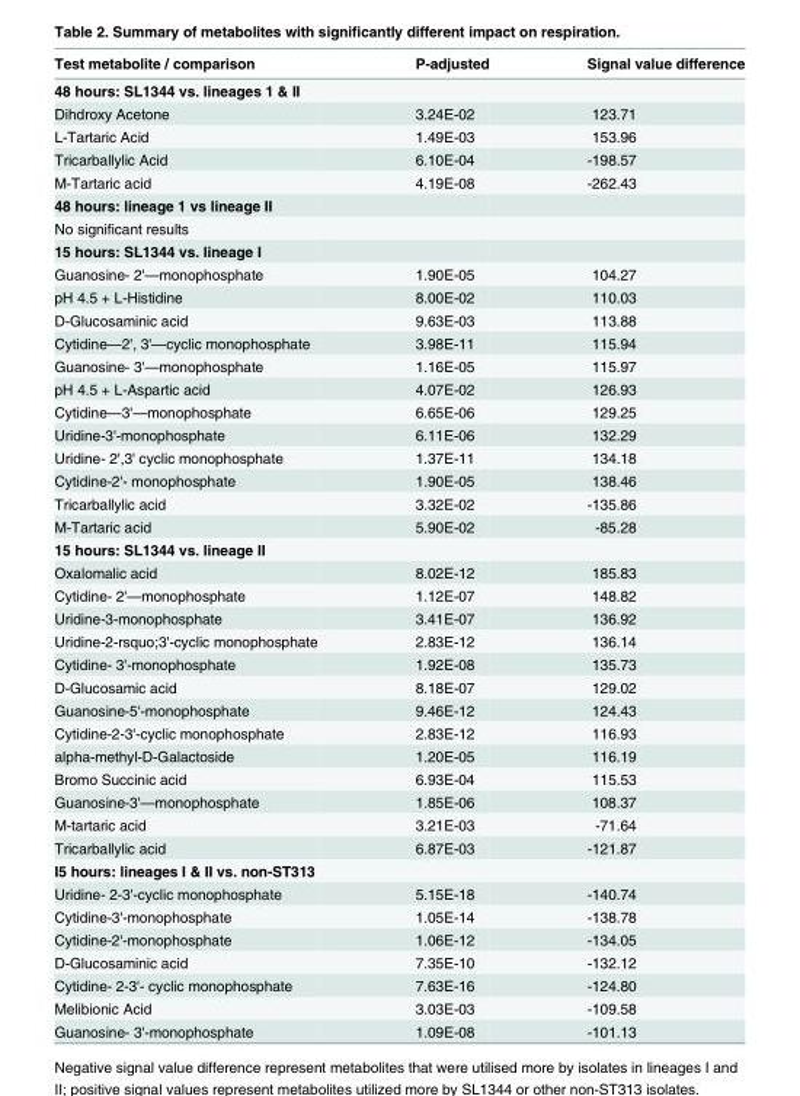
<table><thead><tr><td>Test metabolite / comparison</td><td>P-adjusted</td><td>Signal value difference</td></tr></thead><tbody><tr><td colspan="3">48 hours: SL1344 vs. lineages 1 &amp; II</td></tr><tr><td>Dihdroxy Acetone</td><td>3.24E-02</td><td>123.71</td></tr><tr><td>L-Tartaric Acid</td><td>1.49E-03</td><td>153.96</td></tr><tr><td>Tricarballylic Acid</td><td>6.10E-04</td><td>-198.57</td></tr><tr><td>M-Tartaric acid</td><td>4.19E-08</td><td>-262.43</td></tr><tr><td colspan="3">48 hours: lineage 1 vs lineage II</td></tr><tr><td colspan="3">No significant results</td></tr><tr><td colspan="3">15 hours: SL1344 vs. lineage I</td></tr><tr><td>Guanosine- 2&#x27;—monophosphate</td><td>1.90E-05</td><td>104.27</td></tr><tr><td>pH 4.5 + L-Histidine</td><td>8.00E-02</td><td>110.03</td></tr><tr><td>D-Glucosaminic acid</td><td>9.63E-03</td><td>113.88</td></tr><tr><td>Cytidine—2&#x27;, 3&#x27;—cyclic monophosphate</td><td>3.98E-11</td><td>115.94</td></tr><tr><td>Guanosine- 3&#x27;—monophosphate</td><td>1.16E-05</td><td>115.97</td></tr><tr><td>pH 4.5 + L-Aspartic acid</td><td>4.07E-02</td><td>126.93</td></tr><tr><td>Cytidine—3&#x27;—monophosphate</td><td>6.65E-06</td><td>129.25</td></tr><tr><td>Uridine-3&#x27;-monophosphate</td><td>6.11E-06</td><td>132.29</td></tr><tr><td>Uridine- 2&#x27;,3&#x27; cyclic monophosphate</td><td>1.37E-11</td><td>134.18</td></tr><tr><td>Cytidine-2&#x27;- monophosphate</td><td>1.90E-05</td><td>138.46</td></tr><tr><td>Tricarballylic acid</td><td>3.32E-02</td><td>-135.86</td></tr><tr><td>M-Tartaric acid</td><td>5.90E-02</td><td>-85.28</td></tr><tr><td colspan="3">15 hours: SL1344 vs. lineage II</td></tr><tr><td>Oxalomalic acid</td><td>8.02E-12</td><td>185.83</td></tr><tr><td>Cytidine- 2&#x27;—monophosphate</td><td>1.12E-07</td><td>148.82</td></tr><tr><td>Uridine-3-monophosphate</td><td>3.41E-07</td><td>136.92</td></tr><tr><td>Uridine-2-rsquo;3&#x27;-cyclic monophosphate</td><td>2.83E-12</td><td>136.14</td></tr><tr><td>Cytidine- 3&#x27;-monophosphate</td><td>1.92E-08</td><td>135.73</td></tr><tr><td>D-Glucosamic acid</td><td>8.18E-07</td><td>129.02</td></tr><tr><td>Guanosine-5&#x27;-monophosphate</td><td>9.46E-12</td><td>124.43</td></tr><tr><td>Cytidine-2-3&#x27;-cyclic monophosphate</td><td>2.83E-12</td><td>116.93</td></tr><tr><td>alpha-methyl-D-Galactoside</td><td>1.20E-05</td><td>116.19</td></tr><tr><td>Bromo Succinic acid</td><td>6.93E-04</td><td>115.53</td></tr><tr><td>Guanosine-3&#x27;—monophosphate</td><td>1.85E-06</td><td>108.37</td></tr><tr><td>M-tartaric acid</td><td>3.21E-03</td><td>-71.64</td></tr><tr><td>Tricarballylic acid</td><td>6.87E-03</td><td>-121.87</td></tr><tr><td colspan="3">I5 hours: lineages I &amp; II vs. non-ST313</td></tr><tr><td>Uridine- 2-3&#x27;-cyclic monophosphate</td><td>5.15E-18</td><td>-140.74</td></tr><tr><td>Cytidine-3&#x27;-monophosphate</td><td>1.05E-14</td><td>-138.78</td></tr><tr><td>Cytidine-2&#x27;-monophosphate</td><td>1.06E-12</td><td>-134.05</td></tr><tr><td>D-Glucosaminic acid</td><td>7.35E-10</td><td>-132.12</td></tr><tr><td>Cytidine- 2-3&#x27;- cyclic monophosphate</td><td>7.63E-16</td><td>-124.80</td></tr><tr><td>Melibionic Acid</td><td>3.03E-03</td><td>-109.58</td></tr><tr><td>Guanosine- 3&#x27;-monophosphate</td><td>1.09E-08</td><td>-101.13</td></tr></tbody></table>